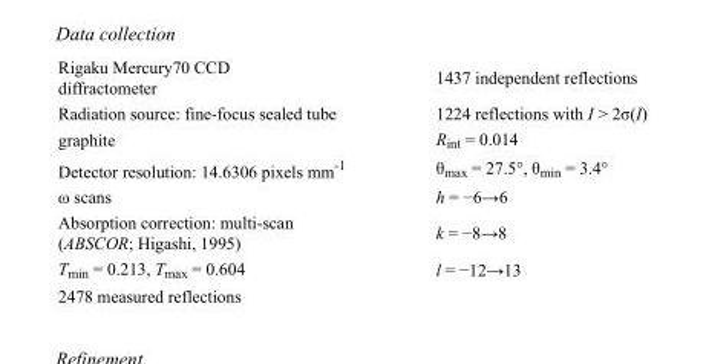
<table><tbody><tr><td>Rigaku Mercury70 CCD diffractometer</td><td>1437 independent reflections</td></tr><tr><td>Radiation source: fine-focus sealed tube</td><td>1224 reflections with I &gt; 2σ(I)</td></tr><tr><td>graphite</td><td>R<sub>int</sub> = 0.014</td></tr><tr><td>Detector resolution: 14.6306 pixels mm<sup>-1</sup></td><td>θ<sub>max</sub> = 27.5°, θ<sub>min</sub> = 3.4°</td></tr><tr><td>ω scans</td><td>h = −6→6</td></tr><tr><td>Absorption correction: multi-scan (ABSCOR; Higashi, 1995)</td><td>k = −8→8</td></tr><tr><td>T<sub>min</sub> = 0.213, T<sub>max</sub> = 0.604</td><td>l = −12→13</td></tr><tr><td>2478 measured reflections</td><td></td></tr></tbody></table>